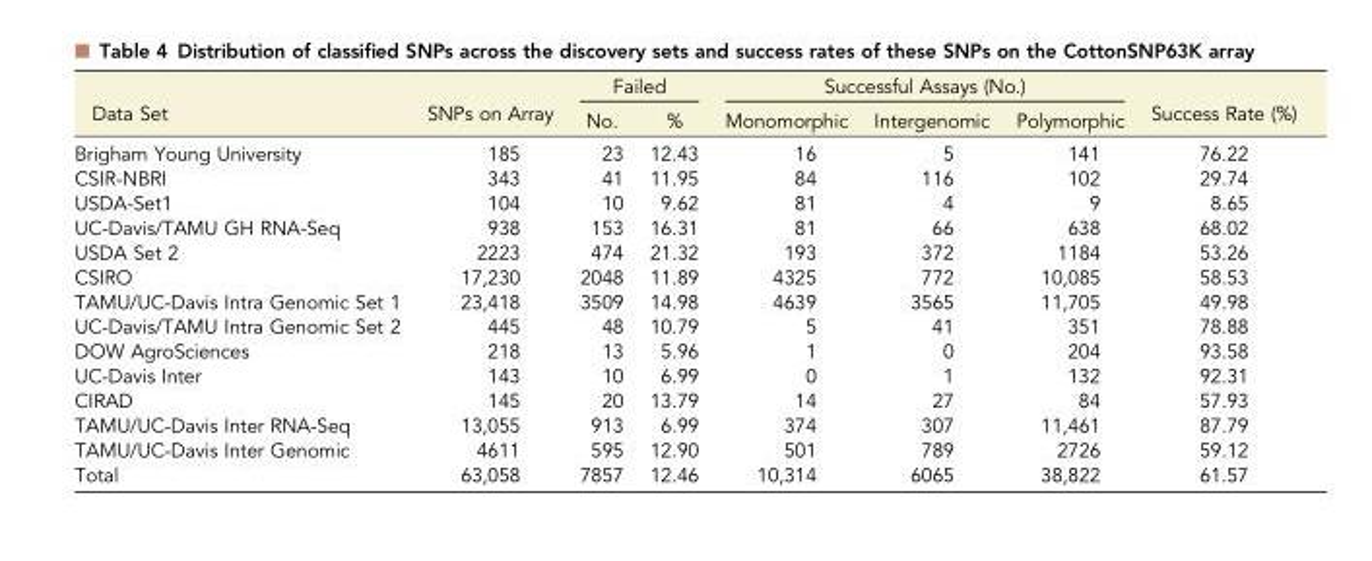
<table><thead><tr><td rowspan="2">Data Set</td><td rowspan="2">SNPs on Array</td><td colspan="2">Failed</td><td colspan="3">Successful Assays (No.)</td><td rowspan="2">Success Rate (%)</td></tr><tr><td>No.</td><td>%</td><td>Monomorphic</td><td>Intergenomic</td><td>Polymorphic</td></tr></thead><tbody><tr><td>Brigham Young University</td><td>185</td><td>23</td><td>12.43</td><td>16</td><td>5</td><td>141</td><td>76.22</td></tr><tr><td>CSIR-NBRI</td><td>343</td><td>41</td><td>11.95</td><td>84</td><td>116</td><td>102</td><td>29.74</td></tr><tr><td>USDA-Set1</td><td>104</td><td>10</td><td>9.62</td><td>81</td><td>4</td><td>9</td><td>8.65</td></tr><tr><td>UC-Davis/TAMU GH RNA-Seq</td><td>938</td><td>153</td><td>16.31</td><td>81</td><td>66</td><td>638</td><td>68.02</td></tr><tr><td>USDA Set 2</td><td>2223</td><td>474</td><td>21.32</td><td>193</td><td>372</td><td>1184</td><td>53.26</td></tr><tr><td>CSIRO</td><td>17,230</td><td>2048</td><td>11.89</td><td>4325</td><td>772</td><td>10,085</td><td>58.53</td></tr><tr><td>TAMU/UC-Davis Intra Genomic Set 1</td><td>23,418</td><td>3509</td><td>14.98</td><td>4639</td><td>3565</td><td>11,705</td><td>49.98</td></tr><tr><td>UC-Davis/TAMU Intra Genomic Set 2</td><td>445</td><td>48</td><td>10.79</td><td>5</td><td>41</td><td>351</td><td>78.88</td></tr><tr><td>DOW AgroSciences</td><td>218</td><td>13</td><td>5.96</td><td>1</td><td>0</td><td>204</td><td>93.58</td></tr><tr><td>UC-Davis Inter</td><td>143</td><td>10</td><td>6.99</td><td>0</td><td>1</td><td>132</td><td>92.31</td></tr><tr><td>CIRAD</td><td>145</td><td>20</td><td>13.79</td><td>14</td><td>27</td><td>84</td><td>57.93</td></tr><tr><td>TAMU/UC-Davis Inter RNA-Seq</td><td>13,055</td><td>913</td><td>6.99</td><td>374</td><td>307</td><td>11,461</td><td>87.79</td></tr><tr><td>TAMU/UC-Davis Inter Genomic</td><td>4611</td><td>595</td><td>12.90</td><td>501</td><td>789</td><td>2726</td><td>59.12</td></tr><tr><td>Total</td><td>63,058</td><td>7857</td><td>12.46</td><td>10,314</td><td>6065</td><td>38,822</td><td>61.57</td></tr></tbody></table>